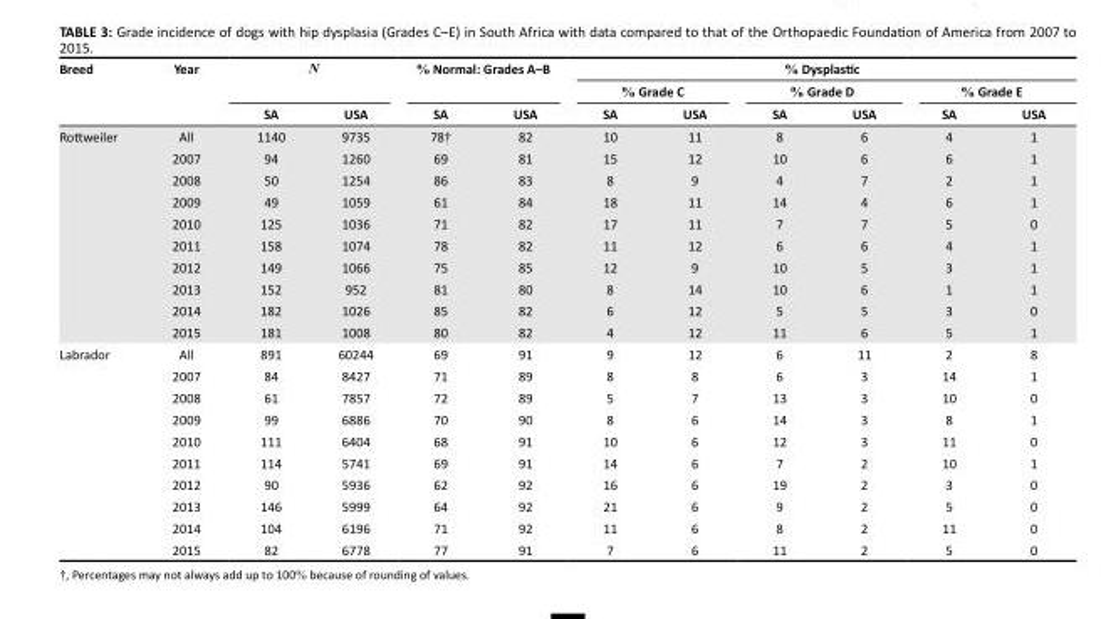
<table><thead><tr><td rowspan="3">Breed</td><td rowspan="3">Year</td><td rowspan="2" colspan="2">N</td><td rowspan="2" colspan="2">% Normal: Grades A–B</td><td colspan="6">% Dysplastic</td></tr><tr><td colspan="2">% Grade C</td><td colspan="2">% Grade D</td><td colspan="2">% Grade E</td></tr><tr><td>SA</td><td>USA</td><td>SA</td><td>USA</td><td>SA</td><td>USA</td><td>SA</td><td>USA</td><td>SA</td><td>USA</td></tr></thead><tbody><tr><td rowspan="10">Rottweiler</td><td>All</td><td>1140</td><td>9735</td><td>78†</td><td>82</td><td>10</td><td>11</td><td>8</td><td>6</td><td>4</td><td>1</td></tr><tr><td>2007</td><td>94</td><td>1260</td><td>69</td><td>81</td><td>15</td><td>12</td><td>10</td><td>6</td><td>6</td><td>1</td></tr><tr><td>2008</td><td>50</td><td>1254</td><td>86</td><td>83</td><td>8</td><td>9</td><td>4</td><td>7</td><td>2</td><td>1</td></tr><tr><td>2009</td><td>49</td><td>1059</td><td>61</td><td>84</td><td>18</td><td>11</td><td>14</td><td>4</td><td>6</td><td>1</td></tr><tr><td>2010</td><td>125</td><td>1036</td><td>71</td><td>82</td><td>17</td><td>11</td><td>7</td><td>7</td><td>5</td><td>0</td></tr><tr><td>2011</td><td>158</td><td>1074</td><td>78</td><td>82</td><td>11</td><td>12</td><td>6</td><td>6</td><td>4</td><td>1</td></tr><tr><td>2012</td><td>149</td><td>1066</td><td>75</td><td>85</td><td>12</td><td>9</td><td>10</td><td>5</td><td>3</td><td>1</td></tr><tr><td>2013</td><td>152</td><td>952</td><td>81</td><td>80</td><td>8</td><td>14</td><td>10</td><td>6</td><td>1</td><td>1</td></tr><tr><td>2014</td><td>182</td><td>1026</td><td>85</td><td>82</td><td>6</td><td>12</td><td>5</td><td>5</td><td>3</td><td>0</td></tr><tr><td>2015</td><td>181</td><td>1008</td><td>80</td><td>82</td><td>4</td><td>12</td><td>11</td><td>6</td><td>5</td><td>1</td></tr><tr><td rowspan="10">Labrador</td><td>All</td><td>891</td><td>60244</td><td>69</td><td>91</td><td>9</td><td>12</td><td>6</td><td>11</td><td>2</td><td>8</td></tr><tr><td>2007</td><td>84</td><td>8427</td><td>71</td><td>89</td><td>8</td><td>8</td><td>6</td><td>3</td><td>14</td><td>1</td></tr><tr><td>2008</td><td>61</td><td>7857</td><td>72</td><td>89</td><td>5</td><td>7</td><td>13</td><td>3</td><td>10</td><td>0</td></tr><tr><td>2009</td><td>99</td><td>6886</td><td>70</td><td>90</td><td>8</td><td>6</td><td>14</td><td>3</td><td>8</td><td>1</td></tr><tr><td>2010</td><td>111</td><td>6404</td><td>68</td><td>91</td><td>10</td><td>6</td><td>12</td><td>3</td><td>11</td><td>0</td></tr><tr><td>2011</td><td>114</td><td>5741</td><td>69</td><td>91</td><td>14</td><td>6</td><td>7</td><td>2</td><td>10</td><td>1</td></tr><tr><td>2012</td><td>90</td><td>5936</td><td>62</td><td>92</td><td>16</td><td>6</td><td>19</td><td>2</td><td>3</td><td>0</td></tr><tr><td>2013</td><td>146</td><td>5999</td><td>64</td><td>92</td><td>21</td><td>6</td><td>9</td><td>2</td><td>5</td><td>0</td></tr><tr><td>2014</td><td>104</td><td>6196</td><td>71</td><td>92</td><td>11</td><td>6</td><td>8</td><td>2</td><td>11</td><td>0</td></tr><tr><td>2015</td><td>82</td><td>6778</td><td>77</td><td>91</td><td>7</td><td>6</td><td>11</td><td>2</td><td>5</td><td>0</td></tr></tbody></table>